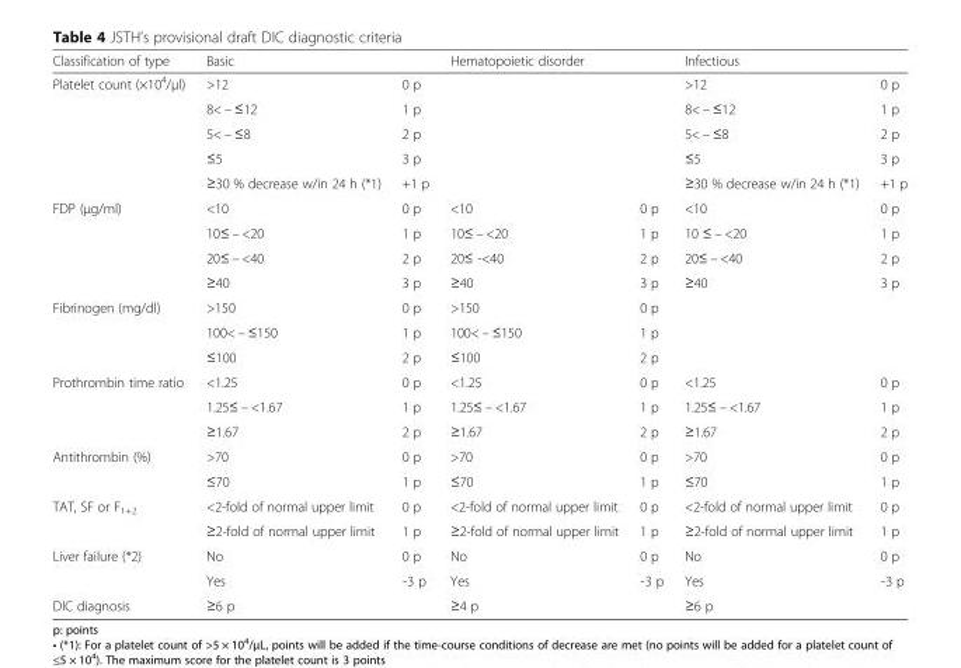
<table><thead><tr><td>Classification of type</td><td colspan="2">Basic</td><td colspan="2">Hematopoietic disorder</td><td colspan="2">Infectious</td></tr></thead><tbody><tr><td rowspan="5">Platelet count (×10<sup>4</sup>/μl)</td><td>&gt;12</td><td>0 p</td><td rowspan="2" colspan="2"></td><td>&gt;12</td><td>0 p</td></tr><tr><td>8&lt; – ≤12</td><td>1 p</td><td>8&lt; – ≤12</td><td>1 p</td></tr><tr><td>5&lt; – ≤8</td><td>2 p</td><td rowspan="3" colspan="2"></td><td>5&lt; – ≤8</td><td>2 p</td></tr><tr><td>≤5</td><td>3 p</td><td>≤5</td><td>3 p</td></tr><tr><td>≥30 % decrease w/in 24 h (*1)</td><td>+1 p</td><td>≥30 % decrease w/in 24 h (*1)</td><td>+1 p</td></tr><tr><td rowspan="4">FDP (μg/ml)</td><td>&lt;10</td><td>0 p</td><td>&lt;10</td><td>0 p</td><td>&lt;10</td><td>0 p</td></tr><tr><td>10≤ – &lt;20</td><td>1 p</td><td>10≤ – &lt;20</td><td>1 p</td><td>10 ≤ – &lt;20</td><td>1 p</td></tr><tr><td>20≤ – &lt;40</td><td>2 p</td><td>20≤ -&lt;40</td><td>2 p</td><td>20≤ – &lt;40</td><td>2 p</td></tr><tr><td>≥40</td><td>3 p</td><td>≥40</td><td>3 p</td><td>≥40</td><td>3 p</td></tr><tr><td rowspan="3">Fibrinogen (mg/dl)</td><td>&gt;150</td><td>0 p</td><td>&gt;150</td><td>0 p</td><td colspan="2"></td></tr><tr><td>100&lt; – ≤150</td><td>1 p</td><td>100&lt; – ≤150</td><td>1 p</td><td rowspan="2" colspan="2"></td></tr><tr><td>≤100</td><td>2 p</td><td>≤100</td><td>2 p</td></tr><tr><td rowspan="3">Prothrombin time ratio</td><td>&lt;1.25</td><td>0 p</td><td>&lt;1.25</td><td>0 p</td><td>&lt;1.25</td><td>0 p</td></tr><tr><td>1.25≤ – &lt;1.67</td><td>1 p</td><td>1.25≤ – &lt;1.67</td><td>1 p</td><td>1.25≤ – &lt;1.67</td><td>1 p</td></tr><tr><td>≥1.67</td><td>2 p</td><td>≥1.67</td><td>2 p</td><td>≥1.67</td><td>2 p</td></tr><tr><td rowspan="2">Antithrombin (%)</td><td>&gt;70</td><td>0 p</td><td>&gt;70</td><td>0 p</td><td>&gt;70</td><td>0 p</td></tr><tr><td>≤70</td><td>1 p</td><td>≤70</td><td>1 p</td><td>≤70</td><td>1 p</td></tr><tr><td rowspan="2">TAT, SF or F<sub>1+2</sub></td><td>&lt;2-fold of normal upper limit</td><td>0 p</td><td>&lt;2-fold of normal upper limit</td><td>0 p</td><td>&lt;2-fold of normal upper limit</td><td>0 p</td></tr><tr><td>≥2-fold of normal upper limit</td><td>1 p</td><td>≥2-fold of normal upper limit</td><td>1 p</td><td>≥2-fold of normal upper limit</td><td>1 p</td></tr><tr><td rowspan="2">Liver failure (*2)</td><td>No</td><td>0 p</td><td>No</td><td>0 p</td><td>No</td><td>0 p</td></tr><tr><td>Yes</td><td>˗3 p</td><td>Yes</td><td>˗3 p</td><td>Yes</td><td>˗3 p</td></tr><tr><td>DIC diagnosis</td><td colspan="2">≥6 p</td><td colspan="2">≥4 p</td><td colspan="2">≥6 p</td></tr></tbody></table>